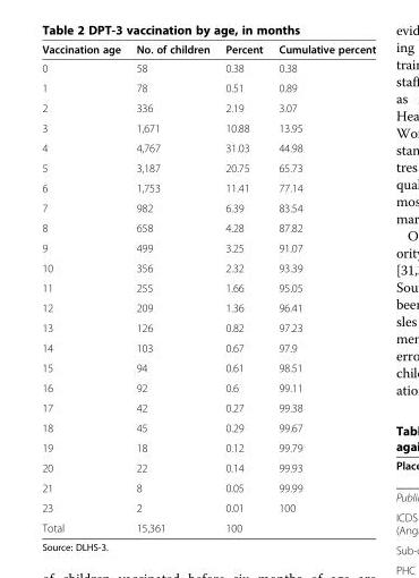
<table><thead><tr><td>Vaccination age</td><td>No. of children</td><td>Percent</td><td>Cumulative percent</td></tr></thead><tbody><tr><td>0</td><td>58</td><td>0.38</td><td>0.38</td></tr><tr><td>1</td><td>78</td><td>0.51</td><td>0.89</td></tr><tr><td>2</td><td>336</td><td>2.19</td><td>3.07</td></tr><tr><td>3</td><td>1,671</td><td>10.88</td><td>13.95</td></tr><tr><td>4</td><td>4,767</td><td>31.03</td><td>44.98</td></tr><tr><td>5</td><td>3,187</td><td>20.75</td><td>65.73</td></tr><tr><td>6</td><td>1,753</td><td>11.41</td><td>77.14</td></tr><tr><td>7</td><td>982</td><td>6.39</td><td>83.54</td></tr><tr><td>8</td><td>658</td><td>4.28</td><td>87.82</td></tr><tr><td>9</td><td>499</td><td>3.25</td><td>91.07</td></tr><tr><td>10</td><td>356</td><td>2.32</td><td>93.39</td></tr><tr><td>11</td><td>255</td><td>1.66</td><td>95.05</td></tr><tr><td>12</td><td>209</td><td>1.36</td><td>96.41</td></tr><tr><td>13</td><td>126</td><td>0.82</td><td>97.23</td></tr><tr><td>14</td><td>103</td><td>0.67</td><td>97.9</td></tr><tr><td>15</td><td>94</td><td>0.61</td><td>98.51</td></tr><tr><td>16</td><td>92</td><td>0.6</td><td>99.11</td></tr><tr><td>17</td><td>42</td><td>0.27</td><td>99.38</td></tr><tr><td>18</td><td>45</td><td>0.29</td><td>99.67</td></tr><tr><td>19</td><td>18</td><td>0.12</td><td>99.79</td></tr><tr><td>20</td><td>22</td><td>0.14</td><td>99.93</td></tr><tr><td>21</td><td>8</td><td>0.05</td><td>99.99</td></tr><tr><td>23</td><td>2</td><td>0.01</td><td>100</td></tr><tr><td>Total</td><td>15,361</td><td>100</td><td></td></tr></tbody></table>